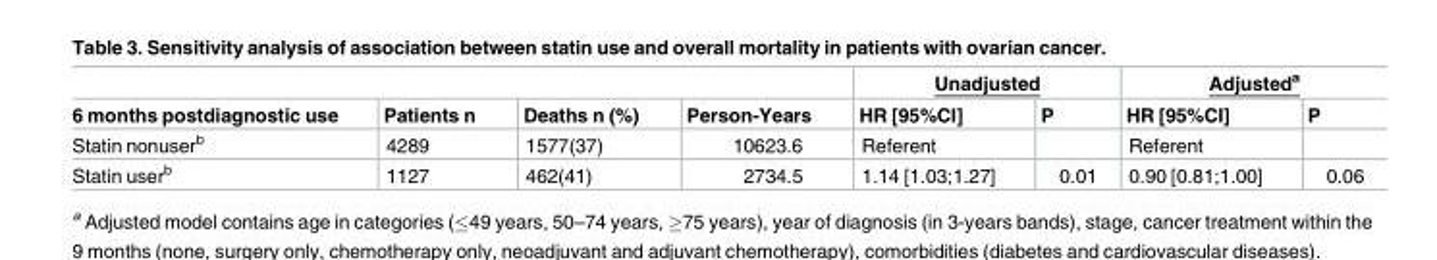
<table><thead><tr><td rowspan="2">6 months postdiagnostic use</td><td rowspan="2">Patients n</td><td rowspan="2">Deaths n (%)</td><td rowspan="2">Person-Years</td><td colspan="2">Unadjusted</td><td colspan="2">Adjusted<sup>a</sup></td></tr><tr><td>HR [95%CI]</td><td>P</td><td>HR [95%CI]</td><td>P</td></tr></thead><tbody><tr><td>Statin nonuser<sup>b</sup></td><td>4289</td><td>1577(37)</td><td>10623.6</td><td>Referent</td><td></td><td>Referent</td><td></td></tr><tr><td>Statin user<sup>b</sup></td><td>1127</td><td>462(41)</td><td>2734.5</td><td>1.14 [1.03;1.27]</td><td>0.01</td><td>0.90 [0.81;1.00]</td><td>0.06</td></tr></tbody></table>